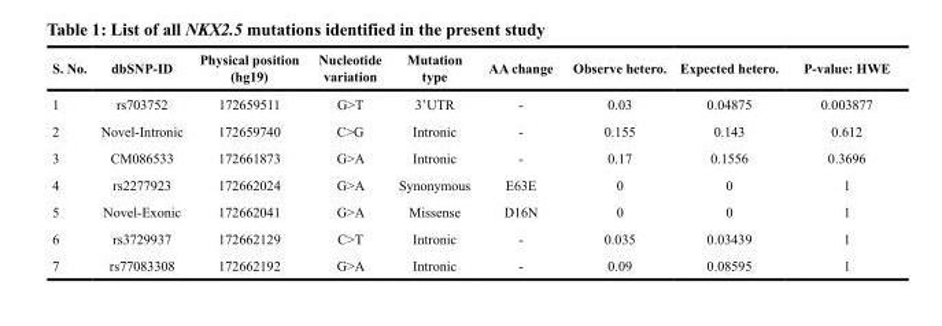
<table><thead><tr><td>S. No.</td><td>dbSNP-ID</td><td>Physical position (hg19)</td><td>Nucleotide variation</td><td>Mutation type</td><td>AA change</td><td>Observe hetero.</td><td>Expected hetero.</td><td>P-value: HWE</td></tr></thead><tbody><tr><td>1</td><td>rs703752</td><td>172659511</td><td>G&gt;T</td><td>3’UTR</td><td>-</td><td>0.03</td><td>0.04875</td><td>0.003877</td></tr><tr><td>2</td><td>Novel-Intronic</td><td>172659740</td><td>C&gt;G</td><td>Intronic</td><td>-</td><td>0.155</td><td>0.143</td><td>0.612</td></tr><tr><td>3</td><td>CM086533</td><td>172661873</td><td>G&gt;A</td><td>Intronic</td><td>-</td><td>0.17</td><td>0.1556</td><td>0.3696</td></tr><tr><td>4</td><td>rs2277923</td><td>172662024</td><td>G&gt;A</td><td>Synonymous</td><td>E63E</td><td>0</td><td>0</td><td>1</td></tr><tr><td>5</td><td>Novel-Exonic</td><td>172662041</td><td>G&gt;A</td><td>Missense</td><td>D16N</td><td>0</td><td>0</td><td>1</td></tr><tr><td>6</td><td>rs3729937</td><td>172662129</td><td>C&gt;T</td><td>Intronic</td><td>-</td><td>0.035</td><td>0.03439</td><td>1</td></tr><tr><td>7</td><td>rs77083308</td><td>172662192</td><td>G&gt;A</td><td>Intronic</td><td>-</td><td>0.09</td><td>0.08595</td><td>1</td></tr></tbody></table>